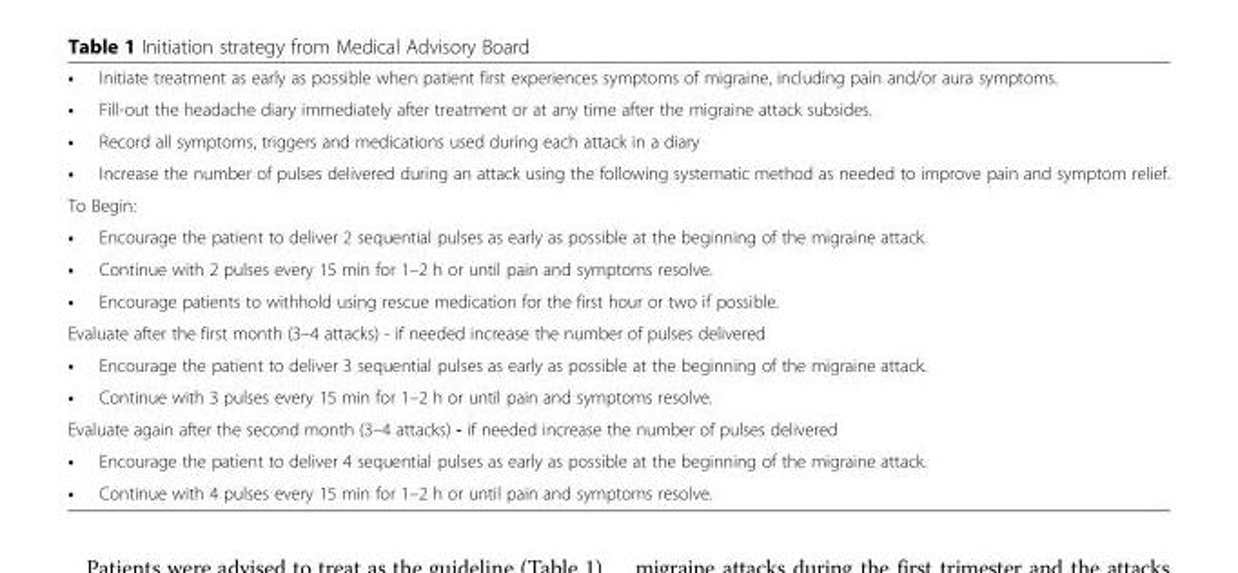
<table><tbody><tr><td>•</td><td>Initiate treatment as early as possible when patient first experiences symptoms of migraine, including pain and/or aura symptoms.</td></tr><tr><td>•</td><td>Fill-out the headache diary immediately after treatment or at any time after the migraine attack subsides.</td></tr><tr><td>•</td><td>Record all symptoms, triggers and medications used during each attack in a diary</td></tr><tr><td>•</td><td>Increase the number of pulses delivered during an attack using the following systematic method as needed to improve pain and symptom relief.</td></tr><tr><td colspan="2">To Begin:</td></tr><tr><td>•</td><td>Encourage the patient to deliver 2 sequential pulses as early as possible at the beginning of the migraine attack.</td></tr><tr><td>•</td><td>Continue with 2 pulses every 15 min for 1–2 h or until pain and symptoms resolve.</td></tr><tr><td>•</td><td>Encourage patients to withhold using rescue medication for the first hour or two if possible.</td></tr><tr><td colspan="2">Evaluate after the first month (3–4 attacks) - if needed increase the number of pulses delivered</td></tr><tr><td>•</td><td>Encourage the patient to deliver 3 sequential pulses as early as possible at the beginning of the migraine attack.</td></tr><tr><td>•</td><td>Continue with 3 pulses every 15 min for 1–2 h or until pain and symptoms resolve.</td></tr><tr><td colspan="2">Evaluate again after the second month (3–4 attacks) - if needed increase the number of pulses delivered</td></tr><tr><td>•</td><td>Encourage the patient to deliver 4 sequential pulses as early as possible at the beginning of the migraine attack.</td></tr><tr><td>•</td><td>Continue with 4 pulses every 15 min for 1–2 h or until pain and symptoms resolve.</td></tr></tbody></table>